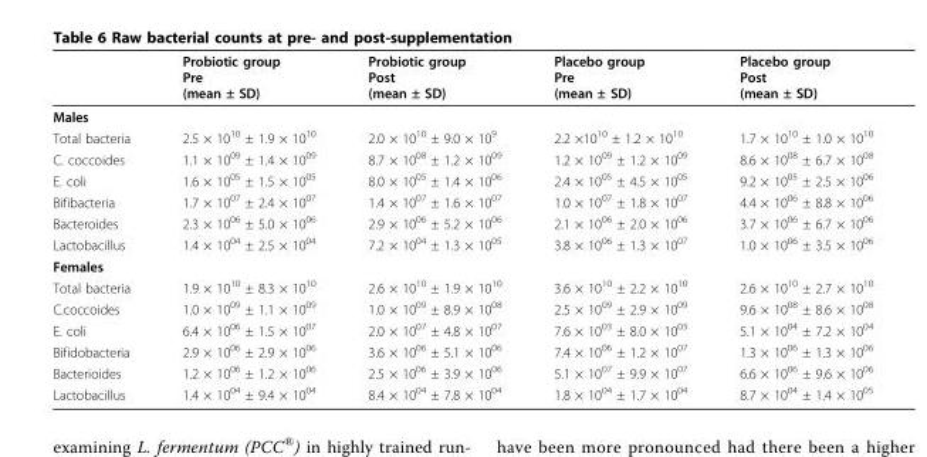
<table><thead><tr><td></td><td>Probiotic group Pre (mean ± SD)</td><td>Probiotic group Post (mean ± SD)</td><td>Placebo group Pre (mean ± SD)</td><td>Placebo group Post (mean ± SD)</td></tr></thead><tbody><tr><td colspan="5">Males</td></tr><tr><td>Total bacteria</td><td>2.5 × 10<sup>10</sup> ± 1.9 × 10<sup>10</sup></td><td>2.0 × 10<sup>10</sup> ± 9.0 × 10<sup>9</sup></td><td>2.2 ×10<sup>10</sup> ± 1.2 × 10<sup>10</sup></td><td>1.7 × 10<sup>10</sup> ± 1.0 × 10<sup>10</sup></td></tr><tr><td>C. coccoides</td><td>1.1 × 10<sup>09</sup> ± 1.4 × 10<sup>09</sup></td><td>8.7 × 10<sup>08</sup> ± 1.2 × 10<sup>09</sup></td><td>1.2 × 10<sup>09</sup> ± 1.2 × 10<sup>09</sup></td><td>8.6 × 10<sup>08</sup> ± 6.7 × 10<sup>08</sup></td></tr><tr><td>E. coli</td><td>1.6 × 10<sup>05</sup> ± 1.5 × 10<sup>05</sup></td><td>8.0 × 10<sup>05</sup> ± 1.4 × 10<sup>06</sup></td><td>2.4 × 10<sup>05</sup> ± 4.5 × 10<sup>05</sup></td><td>9.2 × 10<sup>05</sup> ± 2.5 × 10<sup>06</sup></td></tr><tr><td>Bifibacteria</td><td>1.7 × 10<sup>07</sup> ± 2.4 × 10<sup>07</sup></td><td>1.4 × 10<sup>07</sup> ± 1.6 × 10<sup>07</sup></td><td>1.0 × 10<sup>07</sup> ± 1.8 × 10<sup>07</sup></td><td>4.4 × 10<sup>06</sup> ± 8.8 × 10<sup>06</sup></td></tr><tr><td>Bacteroides</td><td>2.3 × 10<sup>06</sup> ± 5.0 × 10<sup>06</sup></td><td>2.9 × 10<sup>06</sup> ± 5.2 × 10<sup>06</sup></td><td>2.1 × 10<sup>06</sup> ± 2.0 × 10<sup>06</sup></td><td>3.7 × 10<sup>06</sup> ± 6.7 × 10<sup>06</sup></td></tr><tr><td>Lactobacillus</td><td>1.4 × 10<sup>04</sup> ± 2.5 × 10<sup>04</sup></td><td>7.2 × 10<sup>04</sup> ± 1.3 × 10<sup>05</sup></td><td>3.8 × 10<sup>06</sup> ± 1.3 × 10<sup>07</sup></td><td>1.0 × 10<sup>06</sup> ± 3.5 × 10<sup>06</sup></td></tr><tr><td colspan="5">Females</td></tr><tr><td>Total bacteria</td><td>1.9 × 10<sup>10</sup> ± 8.3 × 10<sup>10</sup></td><td>2.6 × 10<sup>10</sup> ± 1.9 × 10<sup>10</sup></td><td>3.6 × 10<sup>10</sup> ± 2.2 × 10<sup>10</sup></td><td>2.6 × 10<sup>10</sup> ± 2.7 × 10<sup>10</sup></td></tr><tr><td>C.coccoides</td><td>1.0 × 10<sup>09</sup> ± 1.1 × 10<sup>09</sup></td><td>1.0 × 10<sup>09</sup> ± 8.9 × 10<sup>08</sup></td><td>2.5 × 10<sup>09</sup> ± 2.9 × 10<sup>09</sup></td><td>9.6 × 10<sup>08</sup> ± 8.6 × 10<sup>08</sup></td></tr><tr><td>E. coli</td><td>6.4 × 10<sup>06</sup> ± 1.5 × 10<sup>07</sup></td><td>2.0 × 10<sup>07</sup> ± 4.8 × 10<sup>07</sup></td><td>7.6 × 10<sup>03</sup> ± 8.0 × 10<sup>03</sup></td><td>5.1 × 10<sup>04</sup> ± 7.2 × 10<sup>04</sup></td></tr><tr><td>Bifidobacteria</td><td>2.9 × 10<sup>06</sup> ± 2.9 × 10<sup>06</sup></td><td>3.6 × 10<sup>06</sup> ± 5.1 × 10<sup>06</sup></td><td>7.4 × 10<sup>06</sup> ± 1.2 × 10<sup>07</sup></td><td>1.3 × 10<sup>06</sup> ± 1.3 × 10<sup>06</sup></td></tr><tr><td>Bacterioides</td><td>1.2 × 10<sup>06</sup> ± 1.2 × 10<sup>06</sup></td><td>2.5 × 10<sup>06</sup> ± 3.9 × 10<sup>06</sup></td><td>5.1 × 10<sup>07</sup> ± 9.9 × 10<sup>07</sup></td><td>6.6 × 10<sup>06</sup> ± 9.6 × 10<sup>06</sup></td></tr><tr><td>Lactobacillus</td><td>1.4 × 10<sup>04</sup> ± 9.4 × 10<sup>04</sup></td><td>8.4 × 10<sup>04</sup> ± 7.8 × 10<sup>04</sup></td><td>1.8 × 10<sup>04</sup> ± 1.7 × 10<sup>04</sup></td><td>8.7 × 10<sup>04</sup> ± 1.4 × 10<sup>05</sup></td></tr></tbody></table>